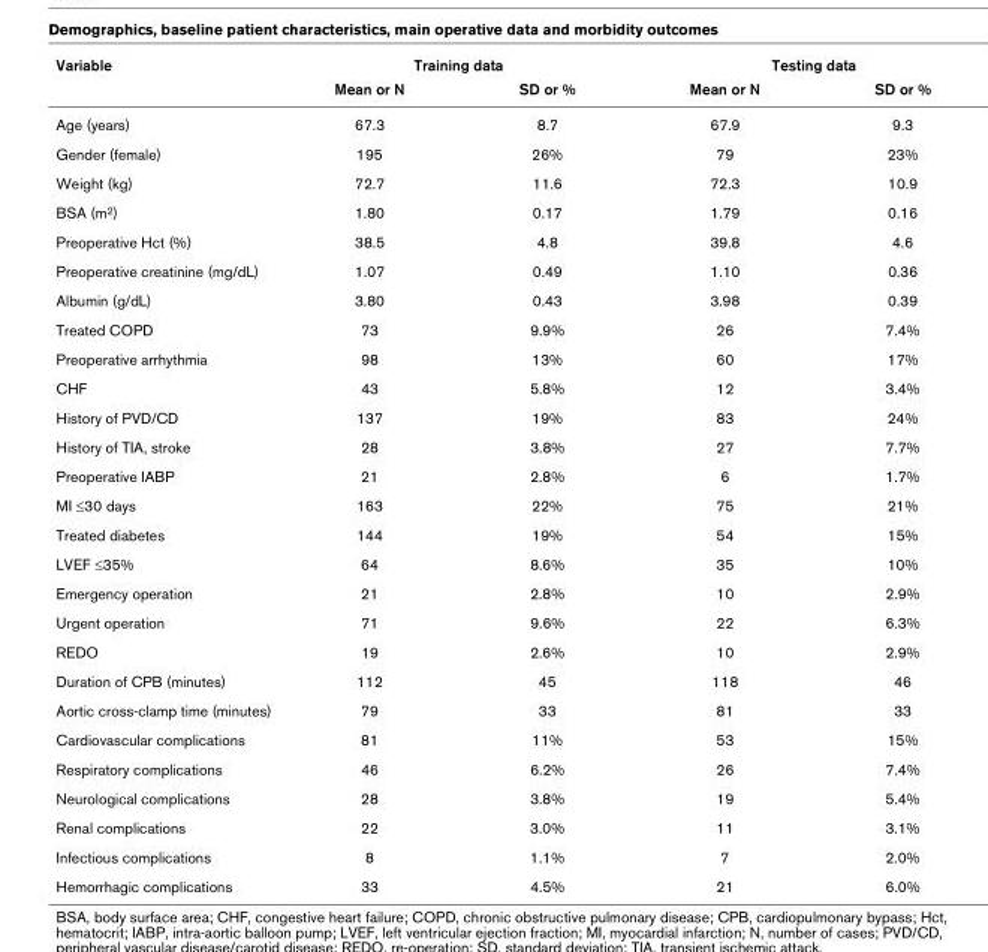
<table><thead><tr><td rowspan="2">Variable</td><td colspan="2">Training data</td><td colspan="2">Testing data</td></tr><tr><td>Mean or N</td><td>SD or %</td><td>Mean or N</td><td>SD or %</td></tr></thead><tbody><tr><td>Age (years)</td><td>67.3</td><td>8.7</td><td>67.9</td><td>9.3</td></tr><tr><td>Gender (female)</td><td>195</td><td>26%</td><td>79</td><td>23%</td></tr><tr><td>Weight (kg)</td><td>72.7</td><td>11.6</td><td>72.3</td><td>10.9</td></tr><tr><td>BSA (m2)</td><td>1.80</td><td>0.17</td><td>1.79</td><td>0.16</td></tr><tr><td>Preoperative Hct (%)</td><td>38.5</td><td>4.8</td><td>39.8</td><td>4.6</td></tr><tr><td>Preoperative creatinine (mg/dL)</td><td>1.07</td><td>0.49</td><td>1.10</td><td>0.36</td></tr><tr><td>Albumin (g/dL)</td><td>3.80</td><td>0.43</td><td>3.98</td><td>0.39</td></tr><tr><td>Treated COPD</td><td>73</td><td>9.9%</td><td>26</td><td>7.4%</td></tr><tr><td>Preoperative arrhythmia</td><td>98</td><td>13%</td><td>60</td><td>17%</td></tr><tr><td>CHF</td><td>43</td><td>5.8%</td><td>12</td><td>3.4%</td></tr><tr><td>History of PVD/CD</td><td>137</td><td>19%</td><td>83</td><td>24%</td></tr><tr><td>History of TIA, stroke</td><td>28</td><td>3.8%</td><td>27</td><td>7.7%</td></tr><tr><td>Preoperative IABP</td><td>21</td><td>2.8%</td><td>6</td><td>1.7%</td></tr><tr><td>MI ≤30 days</td><td>163</td><td>22%</td><td>75</td><td>21%</td></tr><tr><td>Treated diabetes</td><td>144</td><td>19%</td><td>54</td><td>15%</td></tr><tr><td>LVEF ≤35%</td><td>64</td><td>8.6%</td><td>35</td><td>10%</td></tr><tr><td>Emergency operation</td><td>21</td><td>2.8%</td><td>10</td><td>2.9%</td></tr><tr><td>Urgent operation</td><td>71</td><td>9.6%</td><td>22</td><td>6.3%</td></tr><tr><td>REDO</td><td>19</td><td>2.6%</td><td>10</td><td>2.9%</td></tr><tr><td>Duration of CPB (minutes)</td><td>112</td><td>45</td><td>118</td><td>46</td></tr><tr><td>Aortic cross-clamp time (minutes)</td><td>79</td><td>33</td><td>81</td><td>33</td></tr><tr><td>Cardiovascular complications</td><td>81</td><td>11%</td><td>53</td><td>15%</td></tr><tr><td>Respiratory complications</td><td>46</td><td>6.2%</td><td>26</td><td>7.4%</td></tr><tr><td>Neurological complications</td><td>28</td><td>3.8%</td><td>19</td><td>5.4%</td></tr><tr><td>Renal complications</td><td>22</td><td>3.0%</td><td>11</td><td>3.1%</td></tr><tr><td>Infectious complications</td><td>8</td><td>1.1%</td><td>7</td><td>2.0%</td></tr><tr><td>Hemorrhagic complications</td><td>33</td><td>4.5%</td><td>21</td><td>6.0%</td></tr></tbody></table>